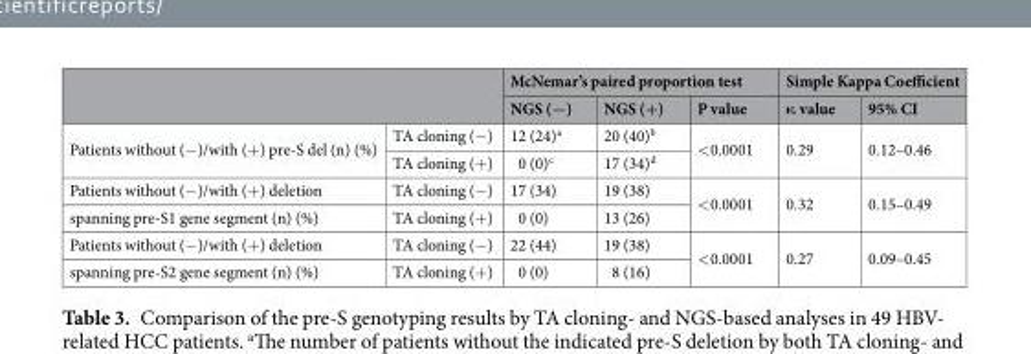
<table><thead><tr><td rowspan="2"></td><td rowspan="2"></td><td colspan="3">McNemar’s paired proportion test</td><td colspan="2">Simple Kappa Coefficient</td></tr><tr><td>NGS (−)</td><td>NGS (+)</td><td>P value</td><td>κ value</td><td>95% CI</td></tr></thead><tbody><tr><td rowspan="2">Patients without (−)/with (+) pre-S del (n) (%)</td><td>TA cloning (−)</td><td>12 (24)<sup>a</sup></td><td>20 (40)<sup>b</sup></td><td rowspan="2">&lt;0.0001</td><td rowspan="2">0.29</td><td rowspan="2">0.12–0.46</td></tr><tr><td>TA cloning (+)</td><td>0 (0)<sup>c</sup></td><td>17 (34)<sup>d</sup></td></tr><tr><td>Patients without (−)/with (+) deletion</td><td>TA cloning (−)</td><td>17 (34)</td><td>19 (38)</td><td rowspan="2">&lt;0.0001</td><td rowspan="2">0.32</td><td rowspan="2">0.15–0.49</td></tr><tr><td>spanning pre-S1 gene segment (n) (%)</td><td>TA cloning (+)</td><td>0 (0)</td><td>13 (26)</td></tr><tr><td>Patients without (−)/with (+) deletion</td><td>TA cloning (−)</td><td>22 (44)</td><td>19 (38)</td><td rowspan="2">&lt;0.0001</td><td rowspan="2">0.27</td><td rowspan="2">0.09–0.45</td></tr><tr><td>spanning pre-S2 gene segment (n) (%)</td><td>TA cloning (+)</td><td>0 (0)</td><td>8 (16)</td></tr></tbody></table>